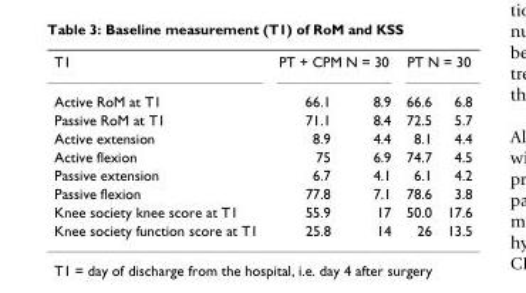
<table><tbody><tr><td>T1</td><td colspan="2">PT + CPM N = 30</td><td colspan="2">PT N = 30</td></tr><tr><td>Active RoM at T1</td><td>66.1</td><td>8.9</td><td>66.6</td><td>6.8</td></tr><tr><td>Passive RoM at T1</td><td>71.1</td><td>8.4</td><td>72.5</td><td>5.7</td></tr><tr><td>Active extension</td><td>8.9</td><td>4.4</td><td>8.1</td><td>4.4</td></tr><tr><td>Active flexion</td><td>75</td><td>6.9</td><td>74.7</td><td>4.5</td></tr><tr><td>Passive extension</td><td>6.7</td><td>4.1</td><td>6.1</td><td>4.2</td></tr><tr><td>Passive flexion</td><td>77.8</td><td>7.1</td><td>78.6</td><td>3.8</td></tr><tr><td>Knee society knee score at T1</td><td>55.9</td><td>17</td><td>50.0</td><td>17.6</td></tr><tr><td>Knee society function score at T1</td><td>25.8</td><td>14</td><td>26</td><td>13.5</td></tr></tbody></table>